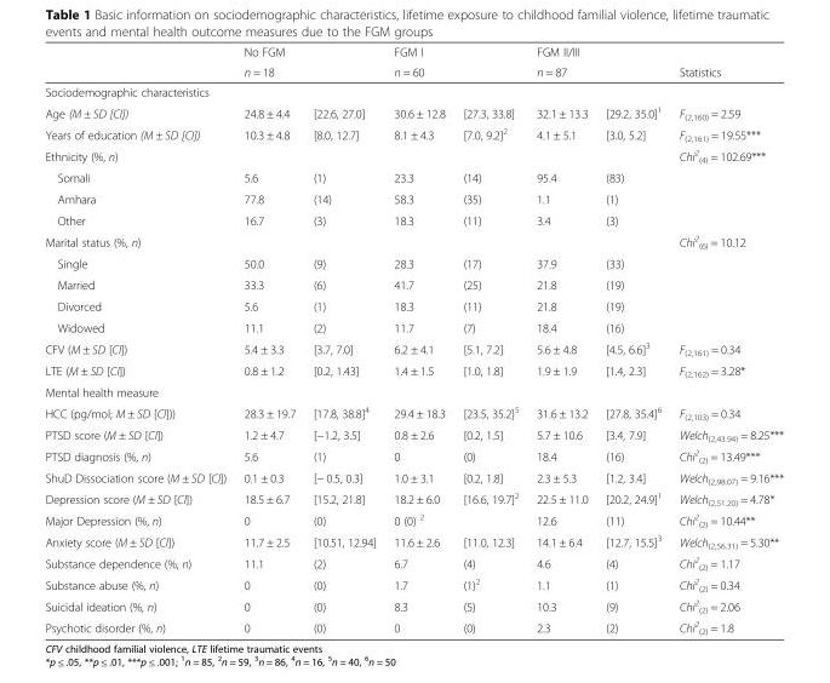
<table><thead><tr><td rowspan="2"></td><td rowspan="2" colspan="2">No FGM n = 18</td><td rowspan="2" colspan="2">FGM I n = 60</td><td rowspan="2" colspan="2">FGM II/III n = 87</td><td rowspan="2">Statistics</td></tr><tr></tr><tr><td colspan="8">Sociodemographic characteristics</td></tr><tr><td>Age (M ± SD [CI])</td><td>24.8 ± 4.4</td><td>[22.6, 27.0]</td><td>30.6 ± 12.8</td><td>[27.3, 33.8]</td><td>32.1 ± 13.3</td><td>[29.2, 35.0]<sup>1</sup></td><td>F<sub>(2,160)</sub> = 2.59</td></tr></thead><tbody><tr><td>Years of education (M ± SD [CI])</td><td>10.3 ± 4.8</td><td>[8.0, 12.7]</td><td>8.1 ± 4.3</td><td>[7.0, 9.2]<sup>2</sup></td><td>4.1 ± 5.1</td><td>[3.0, 5.2]</td><td>F<sub>(2,161)</sub> = 19.55***</td></tr><tr><td>Ethnicity (%, n)</td><td></td><td></td><td></td><td></td><td></td><td></td><td>Chi<sup>2</sup> <sub>(4)</sub> = 102.69***</td></tr><tr><td>Somali</td><td>5.6</td><td>(1)</td><td>23.3</td><td>(14)</td><td>95.4</td><td>(83)</td><td></td></tr><tr><td>Amhara</td><td>77.8</td><td>(14)</td><td>58.3</td><td>(35)</td><td>1.1</td><td>(1)</td><td></td></tr><tr><td>Other</td><td>16.7</td><td>(3)</td><td>18.3</td><td>(11)</td><td>3.4</td><td>(3)</td><td></td></tr><tr><td>Marital status (%, n)</td><td></td><td></td><td></td><td></td><td></td><td></td><td>Chi<sup>2</sup> <sub>(6)</sub> = 10.12</td></tr><tr><td>Single</td><td>50.0</td><td>(9)</td><td>28.3</td><td>(17)</td><td>37.9</td><td>(33)</td><td></td></tr><tr><td>Married</td><td>33.3</td><td>(6)</td><td>41.7</td><td>(25)</td><td>21.8</td><td>(19)</td><td></td></tr><tr><td>Divorced</td><td>5.6</td><td>(1)</td><td>18.3</td><td>(11)</td><td>21.8</td><td>(19)</td><td></td></tr><tr><td>Widowed</td><td>11.1</td><td>(2)</td><td>11.7</td><td>(7)</td><td>18.4</td><td>(16)</td><td></td></tr><tr><td>CFV (M ± SD [CI])</td><td>5.4 ± 3.3</td><td>[3.7, 7.0]</td><td>6.2 ± 4.1</td><td>[5.1, 7.2]</td><td>5.6 ± 4.8</td><td>[4.5, 6.6]<sup>3</sup></td><td>F<sub>(2,161)</sub> = 0.34</td></tr><tr><td>LTE (M ± SD [CI])</td><td>0.8 ± 1.2</td><td>[0.2, 1.43]</td><td>1.4 ± 1.5</td><td>[1.0, 1.8]</td><td>1.9 ± 1.9</td><td>[1.4, 2.3]</td><td>F<sub>(2,162)</sub> = 3.28*</td></tr><tr><td colspan="8">Mental health measure</td></tr><tr><td>HCC (pg/mol; M ± SD [CI]))</td><td>28.3 ± 19.7</td><td>[17.8, 38.8]<sup>4</sup></td><td>29.4 ± 18.3</td><td>[23.5, 35.2]<sup>5</sup></td><td>31.6 ± 13.2</td><td>[27.8, 35.4]<sup>6</sup></td><td>F<sub>(2,103)</sub> = 0.34</td></tr><tr><td>PTSD score (M ± SD [CI])</td><td>1.2 ± 4.7</td><td>[−1.2, 3.5]</td><td>0.8 ± 2.6</td><td>[0.2, 1.5]</td><td>5.7 ± 10.6</td><td>[3.4, 7.9]</td><td>Welch<sub>(2,43.94)</sub> = 8.25***</td></tr><tr><td>PTSD diagnosis (%, n)</td><td>5.6</td><td>(1)</td><td>0</td><td>(0)</td><td>18.4</td><td>(16)</td><td>Chi<sup>2</sup> <sub>(2)</sub> = 13.49***</td></tr><tr><td>ShuD Dissociation score (M ± SD [CI])</td><td>0.1 ± 0.3</td><td>[− 0.5, 0.3]</td><td>1.0 ± 3.1</td><td>[0.2, 1.8]</td><td>2.3 ± 5.3</td><td>[1.2, 3.4]</td><td>Welch<sub>(2,98.07)</sub> = 9.16***</td></tr><tr><td>Depression score (M ± SD [CI])</td><td>18.5 ± 6.7</td><td>[15.2, 21.8]</td><td>18.2 ± 6.0</td><td>[16.6, 19.7]<sup>2</sup></td><td>22.5 ± 11.0</td><td>[20.2, 24.9]<sup>1</sup></td><td>Welch<sub>(2,51.20)</sub> = 4.78*</td></tr><tr><td>Major Depression (%, n)</td><td>0</td><td>(0)</td><td>0 (0) <sup>2</sup></td><td></td><td>12.6</td><td>(11)</td><td>Chi<sup>2</sup> <sub>(2)</sub> = 10.44**</td></tr><tr><td>Anxiety score (M ± SD [CI])</td><td>11.7 ± 2.5</td><td>[10.51, 12.94]</td><td>11.6 ± 2.6</td><td>[11.0, 12.3]</td><td>14.1 ± 6.4</td><td>[12.7, 15.5]<sup>3</sup></td><td>Welch<sub>(2,56.31)</sub> = 5.30**</td></tr><tr><td>Substance dependence (%, n)</td><td>11.1</td><td>(2)</td><td>6.7</td><td>(4)</td><td>4.6</td><td>(4)</td><td>Chi<sup>2</sup> <sub>(2)</sub> = 1.17</td></tr><tr><td>Substance abuse (%, n)</td><td>0</td><td>(0)</td><td>1.7</td><td>(1)<sup>2</sup></td><td>1.1</td><td>(1)</td><td>Chi<sup>2</sup> <sub>(2)</sub> = 0.34</td></tr><tr><td>Suicidal ideation (%, n)</td><td>0</td><td>(0)</td><td>8.3</td><td>(5)</td><td>10.3</td><td>(9)</td><td>Chi<sup>2</sup> <sub>(2)</sub> = 2.06</td></tr><tr><td>Psychotic disorder (%, n)</td><td>0</td><td>(0)</td><td>0</td><td>(0)</td><td>2.3</td><td>(2)</td><td>Chi<sup>2</sup> <sub>(2)</sub> = 1.8</td></tr></tbody></table>